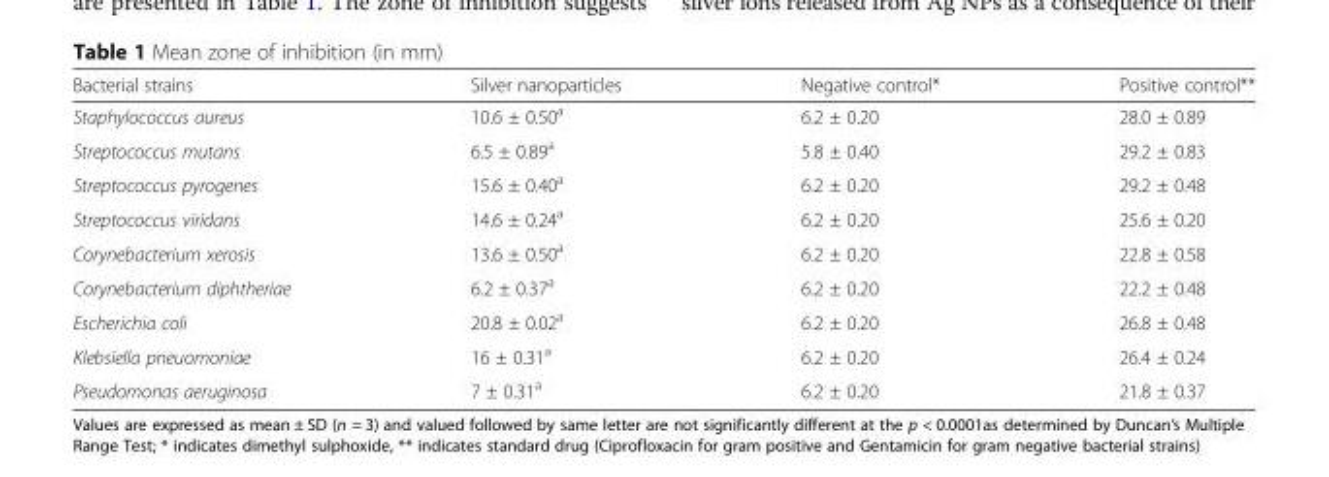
<table><thead><tr><td>Bacterial strains</td><td>Silver nanoparticles</td><td>Negative control*</td><td>Positive control**</td></tr></thead><tbody><tr><td>Staphylococcus aureus</td><td>10.6 ± 0.50<sup>a</sup></td><td>6.2 ± 0.20</td><td>28.0 ± 0.89</td></tr><tr><td>Streptococcus mutans</td><td>6.5 ± 0.89<sup>a</sup></td><td>5.8 ± 0.40</td><td>29.2 ± 0.83</td></tr><tr><td>Streptococcus pyrogenes</td><td>15.6 ± 0.40<sup>a</sup></td><td>6.2 ± 0.20</td><td>29.2 ± 0.48</td></tr><tr><td>Streptococcus viridans</td><td>14.6 ± 0.24<sup>a</sup></td><td>6.2 ± 0.20</td><td>25.6 ± 0.20</td></tr><tr><td>Corynebacterium xerosis</td><td>13.6 ± 0.50<sup>a</sup></td><td>6.2 ± 0.20</td><td>22.8 ± 0.58</td></tr><tr><td>Corynebacterium diphtheriae</td><td>6.2 ± 0.37<sup>a</sup></td><td>6.2 ± 0.20</td><td>22.2 ± 0.48</td></tr><tr><td>Escherichia coli</td><td>20.8 ± 0.02<sup>a</sup></td><td>6.2 ± 0.20</td><td>26.8 ± 0.48</td></tr><tr><td>Klebsiella pneuomoniae</td><td>16 ± 0.31<sup>a</sup></td><td>6.2 ± 0.20</td><td>26.4 ± 0.24</td></tr><tr><td>Pseudomonas aeruginosa</td><td>7 ± 0.31<sup>a</sup></td><td>6.2 ± 0.20</td><td>21.8 ± 0.37</td></tr></tbody></table>